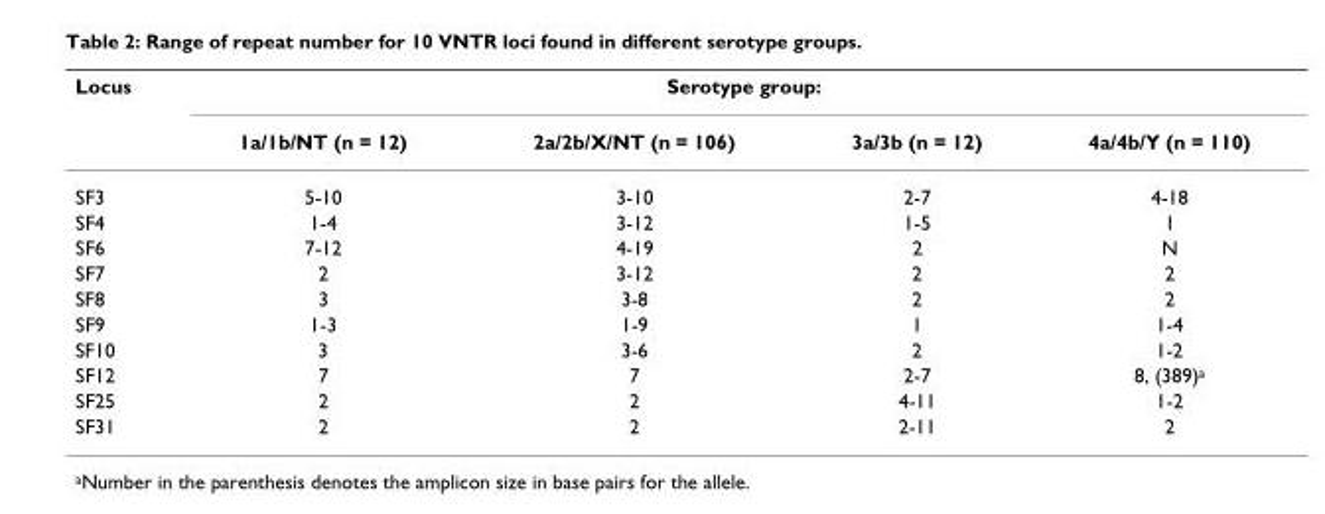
<table><thead><tr><td rowspan="2">Locus</td><td colspan="4">Serotype group:</td></tr><tr><td>1a/1b/NT (n = 12)</td><td>2a/2b/X/NT (n = 106)</td><td>3a/3b (n = 12)</td><td>4a/4b/Y (n = 110)</td></tr></thead><tbody><tr><td>SF3</td><td>5-10</td><td>3-10</td><td>2-7</td><td>4-18</td></tr><tr><td>SF4</td><td>1-4</td><td>3-12</td><td>1-5</td><td>1</td></tr><tr><td>SF6</td><td>7-12</td><td>4-19</td><td>2</td><td>N</td></tr><tr><td>SF7</td><td>2</td><td>3-12</td><td>2</td><td>2</td></tr><tr><td>SF8</td><td>3</td><td>3-8</td><td>2</td><td>2</td></tr><tr><td>SF9</td><td>1-3</td><td>1-9</td><td>1</td><td>1-4</td></tr><tr><td>SF10</td><td>3</td><td>3-6</td><td>2</td><td>1-2</td></tr><tr><td>SF12</td><td>7</td><td>7</td><td>2-7</td><td>8, (389)<sup>a</sup></td></tr><tr><td>SF25</td><td>2</td><td>2</td><td>4-11</td><td>1-2</td></tr><tr><td>SF31</td><td>2</td><td>2</td><td>2-11</td><td>2</td></tr></tbody></table>